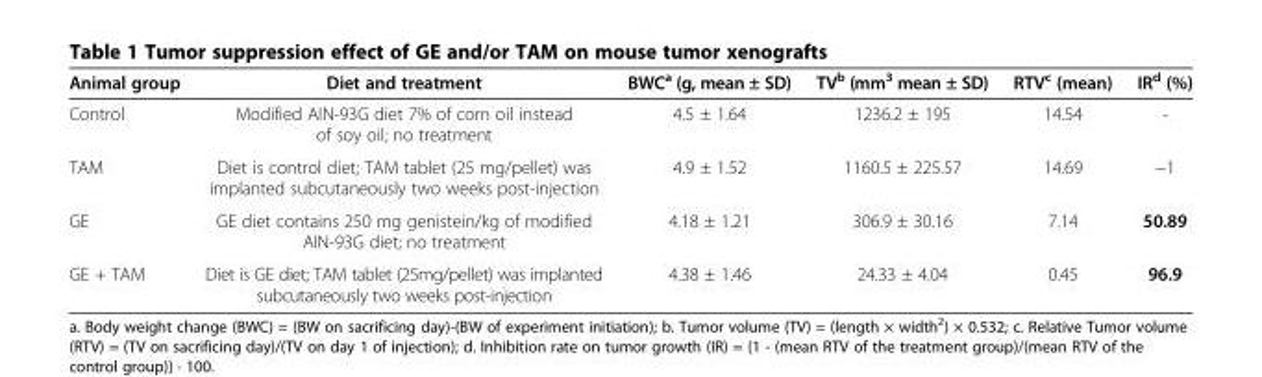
<table><thead><tr><td>Animal group</td><td>Diet and treatment</td><td>BWC<sup>a</sup> (g, mean ± SD)</td><td>TV<sup>b</sup> (mm<sup>3</sup> mean ± SD)</td><td>RTV<sup>c</sup> (mean)</td><td>IR<sup>d</sup> (%)</td></tr></thead><tbody><tr><td>Control</td><td>Modified AIN-93G diet 7% of corn oil instead of soy oil; no treatment</td><td>4.5 ± 1.64</td><td>1236.2 ± 195</td><td>14.54</td><td>-</td></tr><tr><td>TAM</td><td>Diet is control diet; TAM tablet (25 mg/pellet) was implanted subcutaneously two weeks post-injection</td><td>4.9 ± 1.52</td><td>1160.5 ± 225.57</td><td>14.69</td><td>−1</td></tr><tr><td>GE</td><td>GE diet contains 250 mg genistein/kg of modified AIN-93G diet; no treatment</td><td>4.18 ± 1.21</td><td>306.9 ± 30.16</td><td>7.14</td><td>50.89</td></tr><tr><td>GE + TAM</td><td>Diet is GE diet; TAM tablet (25mg/pellet) was implanted subcutaneously two weeks post-injection</td><td>4.38 ± 1.46</td><td>24.33 ± 4.04</td><td>0.45</td><td>96.9</td></tr></tbody></table>